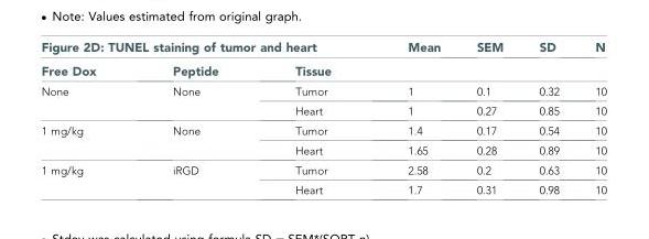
<table><thead><tr><td colspan="3">Figure 2D: TUNEL staining of tumor and heart</td><td rowspan="2">Mean</td><td rowspan="2">SEM</td><td rowspan="2">SD</td><td rowspan="2">N</td></tr><tr><td>Free Dox</td><td>Peptide</td><td>Tissue</td></tr></thead><tbody><tr><td rowspan="2">None</td><td rowspan="2">None</td><td>Tumor</td><td>1</td><td>0.1</td><td>0.32</td><td>10</td></tr><tr><td>Heart</td><td>1</td><td>0.27</td><td>0.85</td><td>10</td></tr><tr><td rowspan="2">1 mg/kg</td><td rowspan="2">None</td><td>Tumor</td><td>1.4</td><td>0.17</td><td>0.54</td><td>10</td></tr><tr><td>Heart</td><td>1.65</td><td>0.28</td><td>0.89</td><td>10</td></tr><tr><td rowspan="2">1 mg/kg</td><td rowspan="2">iRGD</td><td>Tumor</td><td>2.58</td><td>0.2</td><td>0.63</td><td>10</td></tr><tr><td>Heart</td><td>1.7</td><td>0.31</td><td>0.98</td><td>10</td></tr></tbody></table>